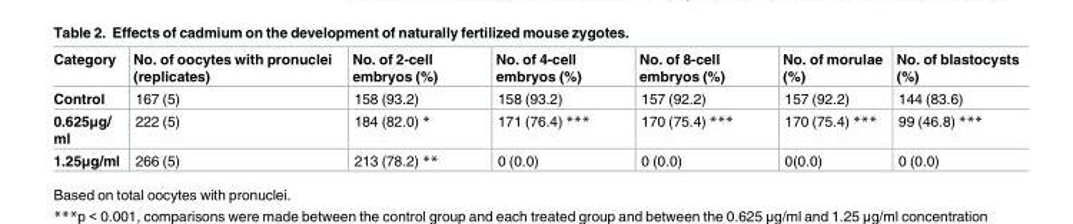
<table><thead><tr><td>Category</td><td>No. of oocytes with pronuclei (replicates)</td><td>No. of 2-cell embryos (%)</td><td>No. of 4-cell embryos (%)</td><td>No. of 8-cell embryos (%)</td><td>No. of morulae (%)</td><td>No. of blastocysts (%)</td></tr></thead><tbody><tr><td>Control</td><td>167 (5)</td><td>158 (93.2)</td><td>158 (93.2)</td><td>157 (92.2)</td><td>157 (92.2)</td><td>144 (83.6)</td></tr><tr><td>0.625μg/ ml</td><td>222 (5)</td><td>184 (82.0) *</td><td>171 (76.4) ***</td><td>170 (75.4) ***</td><td>170 (75.4) ***</td><td>99 (46.8) ***</td></tr><tr><td>1.25μg/ml</td><td>266 (5)</td><td>213 (78.2) **</td><td>0 (0.0)</td><td>0 (0.0)</td><td>0(0.0)</td><td>0 (0.0)</td></tr></tbody></table>